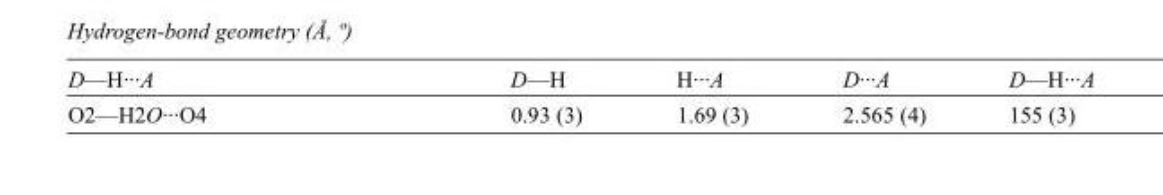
<table><tbody><tr><td>D—H···A</td><td>D—H</td><td>H···A</td><td>D···A</td><td>D—H···A</td></tr><tr><td>O2—H2O···O4</td><td>0.93 (3)</td><td>1.69 (3)</td><td>2.565 (4)</td><td>155 (3)</td></tr></tbody></table>